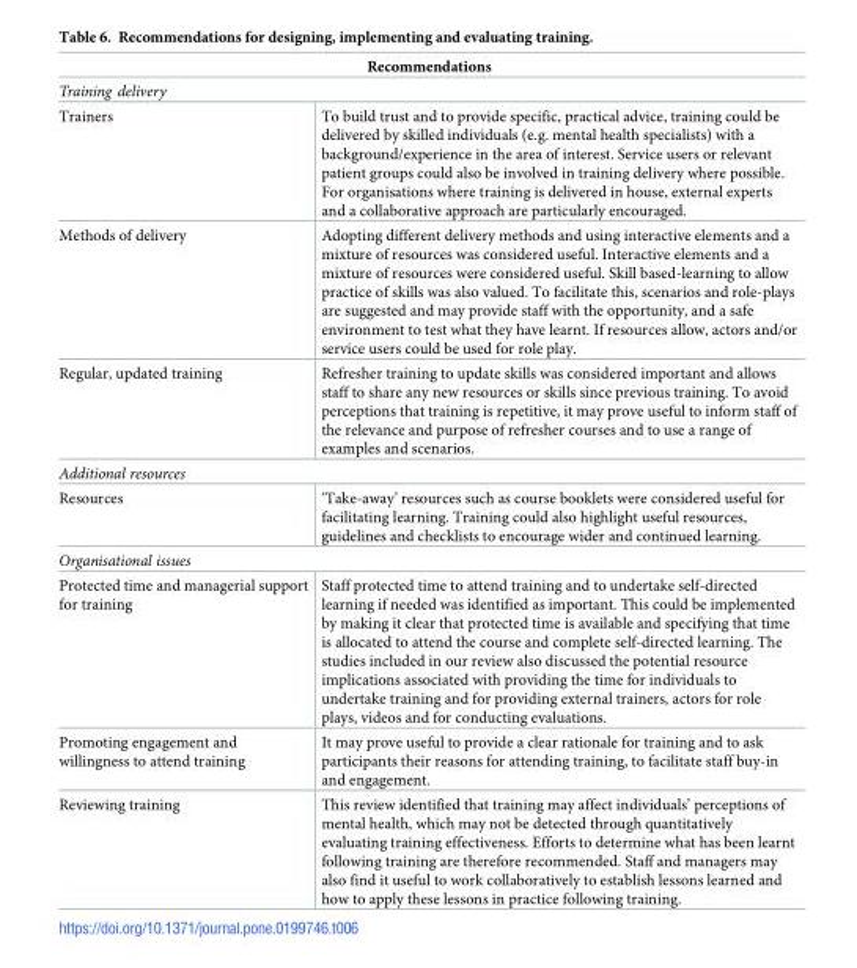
<table><thead><tr><td rowspan="2" colspan="2">Recommendations Training delivery</td></tr><tr></tr><tr><td>Trainers</td><td>To build trust and to provide specific, practical advice, training could be delivered by skilled individuals (e.g. mental health specialists) with a background/experience in the area of interest. Service users or relevant patient groups could also be involved in training delivery where possible. For organisations where training is delivered in house, external experts and a collaborative approach are particularly encouraged.</td></tr></thead><tbody><tr><td>Methods of delivery</td><td>Adopting different delivery methods and using interactive elements and a mixture of resources was considered useful. Interactive elements and a mixture of resources were considered useful. Skill based-learning to allow practice of skills was also valued. To facilitate this, scenarios and role-plays are suggested and may provide staff with the opportunity, and a safe environment to test what they have learnt. If resources allow, actors and/or service users could be used for role play.</td></tr><tr><td>Regular, updated training</td><td>Refresher training to update skills was considered important and allows staff to share any new resources or skills since previous training. To avoid perceptions that training is repetitive, it may prove useful to inform staff of the relevance and purpose of refresher courses and to use a range of examples and scenarios.</td></tr><tr><td colspan="2">Additional resources</td></tr><tr><td>Resources</td><td>‘Take-away’ resources such as course booklets were considered useful for facilitating learning. Training could also highlight useful resources, guidelines and checklists to encourage wider and continued learning.</td></tr><tr><td colspan="2">Organisational issues</td></tr><tr><td>Protected time and managerial support for training</td><td>Staff protected time to attend training and to undertake self-directed learning if needed was identified as important. This could be implemented by making it clear that protected time is available and specifying that time is allocated to attend the course and complete self-directed learning. The studies included in our review also discussed the potential resource implications associated with providing the time for individuals to undertake training and for providing external trainers, actors for role plays, videos and for conducting evaluations.</td></tr><tr><td>Promoting engagement and willingness to attend training</td><td>It may prove useful to provide a clear rationale for training and to ask participants their reasons for attending training, to facilitate staff buy-in and engagement.</td></tr><tr><td>Reviewing training</td><td>This review identified that training may affect individuals’ perceptions of mental health, which may not be detected through quantitatively evaluating training effectiveness. Efforts to determine what has been learnt following training are therefore recommended. Staff and managers may also find it useful to work collaboratively to establish lessons learned and how to apply these lessons in practice following training.</td></tr></tbody></table>